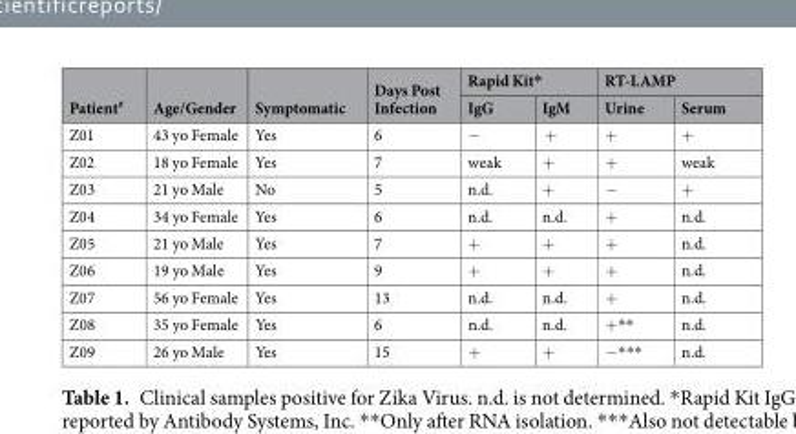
<table><thead><tr><td rowspan="2">Patient<sup>#</sup></td><td rowspan="2">Age/Gender</td><td rowspan="2">Symptomatic</td><td rowspan="2">Days Post Infection</td><td colspan="2">Rapid Kit*</td><td colspan="2">RT-LAMP</td></tr><tr><td>IgG</td><td>IgM</td><td>Urine</td><td>Serum</td></tr></thead><tbody><tr><td>Z01</td><td>43 yo Female</td><td>Yes</td><td>6</td><td>−</td><td>+</td><td>+</td><td>+</td></tr><tr><td>Z02</td><td>18 yo Female</td><td>Yes</td><td>7</td><td>weak</td><td>+</td><td>+</td><td>weak</td></tr><tr><td>Z03</td><td>21 yo Male</td><td>No</td><td>5</td><td>n.d.</td><td>+</td><td>−</td><td>+</td></tr><tr><td>Z04</td><td>34 yo Female</td><td>Yes</td><td>6</td><td>n.d.</td><td>n.d.</td><td>+</td><td>n.d.</td></tr><tr><td>Z05</td><td>21 yo Male</td><td>Yes</td><td>7</td><td>+</td><td>+</td><td>+</td><td>n.d.</td></tr><tr><td>Z06</td><td>19 yo Male</td><td>Yes</td><td>9</td><td>+</td><td>+</td><td>+</td><td>n.d.</td></tr><tr><td>Z07</td><td>56 yo Female</td><td>Yes</td><td>13</td><td>n.d.</td><td>n.d.</td><td>+</td><td>n.d.</td></tr><tr><td>Z08</td><td>35 yo Female</td><td>Yes</td><td>6</td><td>n.d.</td><td>n.d.</td><td>+**</td><td>n.d.</td></tr><tr><td>Z09</td><td>26 yo Male</td><td>Yes</td><td>15</td><td>+</td><td>+</td><td>−***</td><td>n.d.</td></tr></tbody></table>